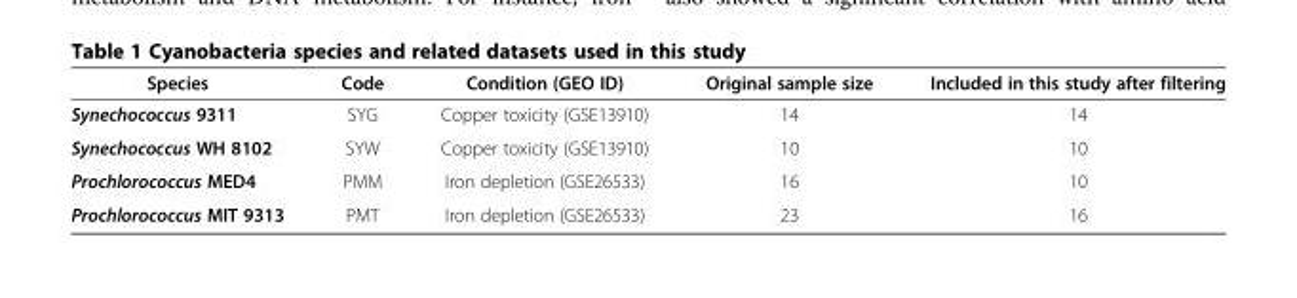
<table><thead><tr><td>Species</td><td>Code</td><td>Condition (GEO ID)</td><td>Original sample size</td><td>Included in this study after filtering</td></tr></thead><tbody><tr><td>Synechococcus 9311</td><td>SYG</td><td>Copper toxicity (GSE13910)</td><td>14</td><td>14</td></tr><tr><td>Synechococcus WH 8102</td><td>SYW</td><td>Copper toxicity (GSE13910)</td><td>10</td><td>10</td></tr><tr><td>Prochlorococcus MED4</td><td>PMM</td><td>Iron depletion (GSE26533)</td><td>16</td><td>10</td></tr><tr><td>Prochlorococcus MIT 9313</td><td>PMT</td><td>Iron depletion (GSE26533)</td><td>23</td><td>16</td></tr></tbody></table>